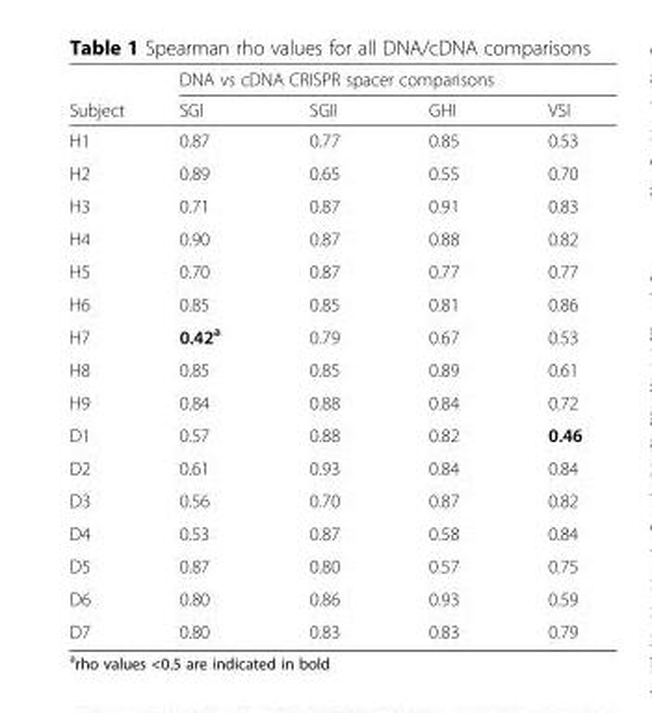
<table><thead><tr><td rowspan="2">Subject</td><td colspan="4">DNA vs cDNA CRISPR spacer comparisons</td></tr><tr><td>SGI</td><td>SGII</td><td>GHI</td><td>VSI</td></tr></thead><tbody><tr><td>H1</td><td>0.87</td><td>0.77</td><td>0.85</td><td>0.53</td></tr><tr><td>H2</td><td>0.89</td><td>0.65</td><td>0.55</td><td>0.70</td></tr><tr><td>H3</td><td>0.71</td><td>0.87</td><td>0.91</td><td>0.83</td></tr><tr><td>H4</td><td>0.90</td><td>0.87</td><td>0.88</td><td>0.82</td></tr><tr><td>H5</td><td>0.70</td><td>0.87</td><td>0.77</td><td>0.77</td></tr><tr><td>H6</td><td>0.85</td><td>0.85</td><td>0.81</td><td>0.86</td></tr><tr><td>H7</td><td>0.42<sup>a</sup></td><td>0.79</td><td>0.67</td><td>0.53</td></tr><tr><td>H8</td><td>0.85</td><td>0.85</td><td>0.89</td><td>0.61</td></tr><tr><td>H9</td><td>0.84</td><td>0.88</td><td>0.84</td><td>0.72</td></tr><tr><td>D1</td><td>0.57</td><td>0.88</td><td>0.82</td><td>0.46</td></tr><tr><td>D2</td><td>0.61</td><td>0.93</td><td>0.84</td><td>0.84</td></tr><tr><td>D3</td><td>0.56</td><td>0.70</td><td>0.87</td><td>0.82</td></tr><tr><td>D4</td><td>0.53</td><td>0.87</td><td>0.58</td><td>0.84</td></tr><tr><td>D5</td><td>0.87</td><td>0.80</td><td>0.57</td><td>0.75</td></tr><tr><td>D6</td><td>0.80</td><td>0.86</td><td>0.93</td><td>0.59</td></tr><tr><td>D7</td><td>0.80</td><td>0.83</td><td>0.83</td><td>0.79</td></tr></tbody></table>